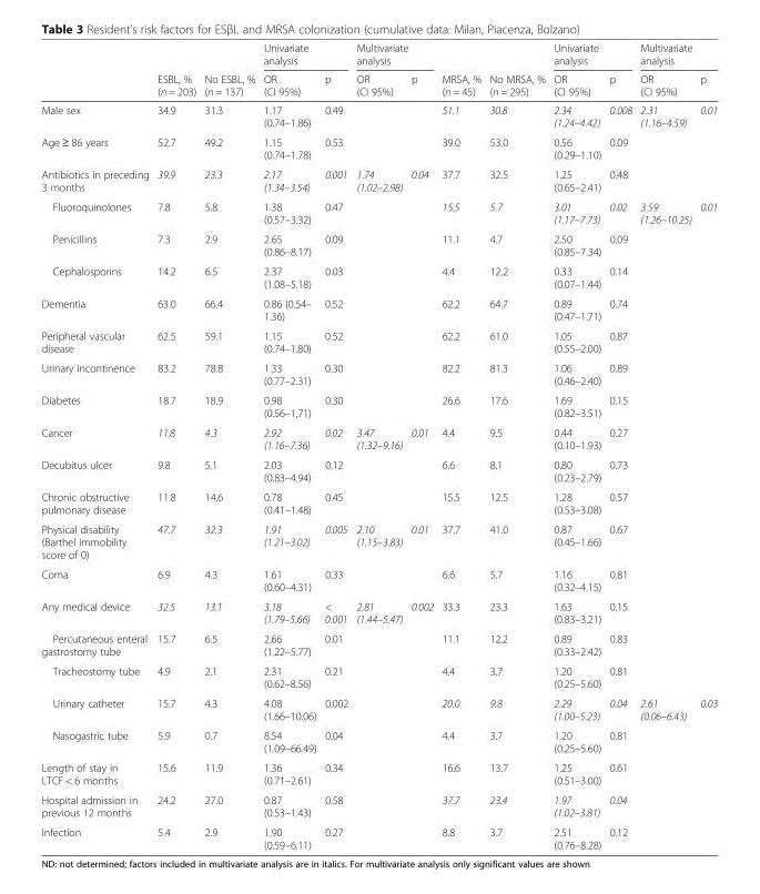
<table><thead><tr><td rowspan="2"></td><td rowspan="2">ESBL, % (n = 203)</td><td rowspan="2">No ESBL, % (n = 137)</td><td colspan="2">Univariate analysis</td><td colspan="2">Multivariate analysis</td><td rowspan="2">MRSA, % (n = 45)</td><td rowspan="2">No MRSA, % (n = 295)</td><td colspan="2">Univariate analysis</td><td colspan="2">Multivariate analysis</td></tr><tr><td>OR (CI 95%)</td><td>p</td><td>OR (CI 95%)</td><td>p</td><td>OR (CI 95%)</td><td>p</td><td>OR (CI 95%)</td><td>p</td></tr></thead><tbody><tr><td>Male sex</td><td>34.9</td><td>31.3</td><td>1.17 (0.74–1.86)</td><td>0.49</td><td></td><td></td><td>51.1</td><td>30.8</td><td>2.34 (1.24–4.42)</td><td>0.008</td><td>2.31 (1.16–4.59)</td><td>0.01</td></tr><tr><td>Age ≥ 86 years</td><td>52.7</td><td>49.2</td><td>1.15 (0.74–1.78)</td><td>0.53</td><td></td><td></td><td>39.0</td><td>53.0</td><td>0.56 (0.29–1.10)</td><td>0.09</td><td></td><td></td></tr><tr><td>Antibiotics in preceding 3 months</td><td>39.9</td><td>23.3</td><td>2.17 (1.34–3.54)</td><td>0.001</td><td>1.74 (1.02–2.98)</td><td>0.04</td><td>37.7</td><td>32.5</td><td>1.25 (0.65–2.41)</td><td>0.48</td><td></td><td></td></tr><tr><td>Fluoroquinolones</td><td>7.8</td><td>5.8</td><td>1.38 (0.57–3.32)</td><td>0.47</td><td></td><td></td><td>15.5</td><td>5.7</td><td>3.01 (1.17–7.73)</td><td>0.02</td><td>3.59 (1.26–10.25)</td><td>0.01</td></tr><tr><td>Penicillins</td><td>7.3</td><td>2.9</td><td>2.65 (0.86–8.17)</td><td>0.09</td><td></td><td></td><td>11.1</td><td>4.7</td><td>2.50 (0.85–7.34)</td><td>0.09</td><td></td><td></td></tr><tr><td>Cephalosporins</td><td>14.2</td><td>6.5</td><td>2.37 (1.08–5.18)</td><td>0.03</td><td></td><td></td><td>4.4</td><td>12.2</td><td>0.33 (0.07–1.44)</td><td>0.14</td><td></td><td></td></tr><tr><td>Dementia</td><td>63.0</td><td>66.4</td><td>0.86 (0.54– 1.36)</td><td>0.52</td><td></td><td></td><td>62.2</td><td>64.7</td><td>0.89 (0.47–1.71)</td><td>0.74</td><td></td><td></td></tr><tr><td>Peripheral vascular disease</td><td>62.5</td><td>59.1</td><td>1.15 (0.74–1.80)</td><td>0.52</td><td></td><td></td><td>62.2</td><td>61.0</td><td>1.05 (0.55–2.00)</td><td>0.87</td><td></td><td></td></tr><tr><td>Urinary incontinence</td><td>83.2</td><td>78.8</td><td>1.33 (0.77–2.31)</td><td>0.30</td><td></td><td></td><td>82.2</td><td>81.3</td><td>1.06 (0.46–2.40)</td><td>0.89</td><td></td><td></td></tr><tr><td>Diabetes</td><td>18.7</td><td>18.9</td><td>0.98 (0.56–1,71)</td><td>0.30</td><td></td><td></td><td>26.6</td><td>17.6</td><td>1.69 (0.82–3.51)</td><td>0.15</td><td></td><td></td></tr><tr><td>Cancer</td><td>11.8</td><td>4.3</td><td>2.92 (1.16–7.36)</td><td>0.02</td><td>3.47 (1.32–9.16)</td><td>0.01</td><td>4.4</td><td>9.5</td><td>0.44 (0.10–1.93)</td><td>0.27</td><td></td><td></td></tr><tr><td>Decubitus ulcer</td><td>9.8</td><td>5.1</td><td>2.03 (0.83–4.94)</td><td>0.12</td><td></td><td></td><td>6.6</td><td>8.1</td><td>0.80 (0.23–2.79)</td><td>0.73</td><td></td><td></td></tr><tr><td>Chronic obstructive pulmonary disease</td><td>11.8</td><td>14.6</td><td>0.78 (0.41–1.48)</td><td>0.45</td><td></td><td></td><td>15.5</td><td>12.5</td><td>1.28 (0.53–3.08)</td><td>0.57</td><td></td><td></td></tr><tr><td>Physical disability (Barthel immobility score of 0)</td><td>47.7</td><td>32.3</td><td>1.91 (1.21–3.02)</td><td>0.005</td><td>2.10 (1.15–3.83)</td><td>0.01</td><td>37.7</td><td>41.0</td><td>0.87 (0.45–1.66)</td><td>0.67</td><td></td><td></td></tr><tr><td>Coma</td><td>6.9</td><td>4.3</td><td>1.61 (0.60–4.31)</td><td>0.33</td><td></td><td></td><td>6.6</td><td>5.7</td><td>1.16 (0.32–4.15)</td><td>0.81</td><td></td><td></td></tr><tr><td>Any medical device</td><td>32.5</td><td>13.1</td><td>3.18 (1.79–5.66)</td><td>&lt; 0.001</td><td>2.81 (1.44–5.47)</td><td>0.002</td><td>33.3</td><td>23.3</td><td>1.63 (0.83–3.21)</td><td>0.15</td><td></td><td></td></tr><tr><td>Percutaneous enteral gastrostomy tube</td><td>15.7</td><td>6.5</td><td>2.66 (1.22–5.77)</td><td>0.01</td><td></td><td></td><td>11.1</td><td>12.2</td><td>0.89 (0.33–2.42)</td><td>0.83</td><td></td><td></td></tr><tr><td>Tracheostomy tube</td><td>4.9</td><td>2.1</td><td>2.31 (0.62–8.56)</td><td>0.21</td><td></td><td></td><td>4.4</td><td>3.7</td><td>1.20 (0.25–5.60)</td><td>0.81</td><td></td><td></td></tr><tr><td>Urinary catheter</td><td>15.7</td><td>4.3</td><td>4.08 (1.66–10.06)</td><td>0.002</td><td></td><td></td><td>20.0</td><td>9.8</td><td>2.29 (1.00–5.23)</td><td>0.04</td><td>2.61 (0.06–6.43)</td><td>0.03</td></tr><tr><td>Nasogastric tube</td><td>5.9</td><td>0.7</td><td>8.54 (1.09–66.49)</td><td>0.04</td><td></td><td></td><td>4.4</td><td>3.7</td><td>1.20 (0.25–5.60)</td><td>0.81</td><td></td><td></td></tr><tr><td>Length of stay in LTCF &lt; 6 months</td><td>15.6</td><td>11.9</td><td>1.36 (0.71–2.61)</td><td>0.34</td><td></td><td></td><td>16.6</td><td>13.7</td><td>1.25 (0.51–3.00)</td><td>0.61</td><td></td><td></td></tr><tr><td>Hospital admission in previous 12 months</td><td>24.2</td><td>27.0</td><td>0.87 (0.53–1.43)</td><td>0.58</td><td></td><td></td><td>37.7</td><td>23.4</td><td>1.97 (1.02–3.81)</td><td>0.04</td><td></td><td></td></tr><tr><td>Infection</td><td>5.4</td><td>2.9</td><td>1.90 (0.59–6.11)</td><td>0.27</td><td></td><td></td><td>8.8</td><td>3.7</td><td>2.51 (0.76–8.28)</td><td>0.12</td><td></td><td></td></tr></tbody></table>